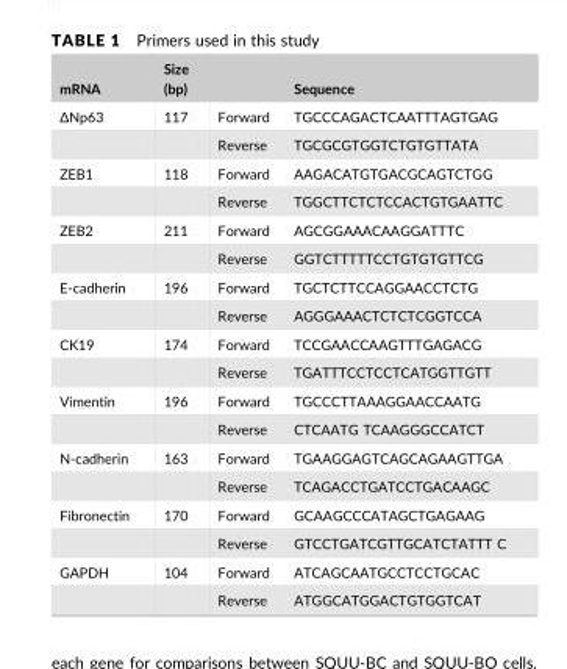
<table><thead><tr><td>mRNA</td><td>Size (bp)</td><td></td><td>Sequence</td></tr></thead><tbody><tr><td rowspan="2">ΔNp63</td><td>117</td><td>Forward</td><td>TGCCCAGACTCAATTTAGTGAG</td></tr><tr><td></td><td>Reverse</td><td>TGCGCGTGGTCTGTGTTATA</td></tr><tr><td rowspan="2">ZEB1</td><td>118</td><td>Forward</td><td>AAGACATGTGACGCAGTCTGG</td></tr><tr><td></td><td>Reverse</td><td>TGGCTTCTCTCCACTGTGAATTC</td></tr><tr><td rowspan="2">ZEB2</td><td>211</td><td>Forward</td><td>AGCGGAAACAAGGATTTC</td></tr><tr><td></td><td>Reverse</td><td>GGTCTTTTTCCTGTGTGTTCG</td></tr><tr><td rowspan="2">E-cadherin</td><td>196</td><td>Forward</td><td>TGCTCTTCCAGGAACCTCTG</td></tr><tr><td></td><td>Reverse</td><td>AGGGAAACTCTCTCGGTCCA</td></tr><tr><td rowspan="2">CK19</td><td>174</td><td>Forward</td><td>TCCGAACCAAGTTTGAGACG</td></tr><tr><td></td><td>Reverse</td><td>TGATTTCCTCCTCATGGTTGTT</td></tr><tr><td rowspan="2">Vimentin</td><td>196</td><td>Forward</td><td>TGCCCTTAAAGGAACCAATG</td></tr><tr><td></td><td>Reverse</td><td>CTCAATG TCAAGGGCCATCT</td></tr><tr><td rowspan="2">N-cadherin</td><td>163</td><td>Forward</td><td>TGAAGGAGTCAGCAGAAGTTGA</td></tr><tr><td></td><td>Reverse</td><td>TCAGACCTGATCCTGACAAGC</td></tr><tr><td rowspan="2">Fibronectin</td><td>170</td><td>Forward</td><td>GCAAGCCCATAGCTGAGAAG</td></tr><tr><td></td><td>Reverse</td><td>GTCCTGATCGTTGCATCTATTT C</td></tr><tr><td rowspan="2">GAPDH</td><td>104</td><td>Forward</td><td>ATCAGCAATGCCTCCTGCAC</td></tr><tr><td></td><td>Reverse</td><td>ATGGCATGGACTGTGGTCAT</td></tr></tbody></table>